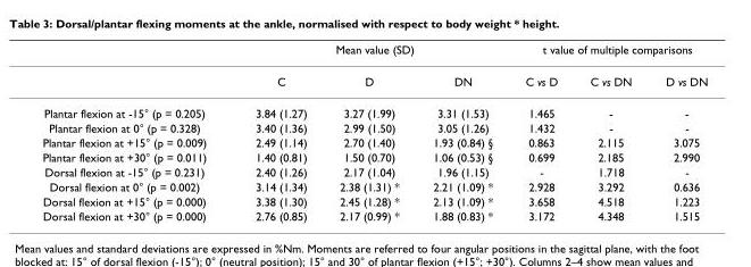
<table><thead><tr><td rowspan="2"></td><td colspan="3">Mean value (SD)</td><td colspan="3">t value of multiple comparisons</td></tr><tr><td>C</td><td>D</td><td>DN</td><td>C vs D</td><td>C vs DN</td><td>D vs DN</td></tr></thead><tbody><tr><td>Plantar flexion at -15° (p = 0.205)</td><td>3.84 (1.27)</td><td>3.27 (1.99)</td><td>3.31 (1.53)</td><td>1.465</td><td>-</td><td>-</td></tr><tr><td>Plantar flexion at 0° (p = 0.328)</td><td>3.40 (1.36)</td><td>2.99 (1.50)</td><td>3.05 (1.26)</td><td>1.432</td><td>-</td><td>-</td></tr><tr><td>Plantar flexion at +15° (p = 0.009)</td><td>2.49 (1.14)</td><td>2.70 (1.40)</td><td>1.93 (0.84) §</td><td>0.863</td><td>2.115</td><td>3.075</td></tr><tr><td>Plantar flexion at +30° (p = 0.011)</td><td>1.40 (0.81)</td><td>1.50 (0.70)</td><td>1.06 (0.53) §</td><td>0.699</td><td>2.185</td><td>2.990</td></tr><tr><td>Dorsal flexion at -15° (p = 0.231)</td><td>2.40 (1.26)</td><td>2.17 (1.04)</td><td>1.96 (1.15)</td><td>-</td><td>1.718</td><td>-</td></tr><tr><td>Dorsal flexion at 0° (p = 0.002)</td><td>3.14 (1.34)</td><td>2.38 (1.31) *</td><td>2.21 (1.09) *</td><td>2.928</td><td>3.292</td><td>0.636</td></tr><tr><td>Dorsal flexion at +15° (p = 0.000)</td><td>3.38 (1.30)</td><td>2.45 (1.28) *</td><td>2.13 (1.09) *</td><td>3.658</td><td>4.518</td><td>1.223</td></tr><tr><td>Dorsal flexion at +30° (p = 0.000)</td><td>2.76 (0.85)</td><td>2.17 (0.99) *</td><td>1.88 (0.83) *</td><td>3.172</td><td>4.348</td><td>1.515</td></tr></tbody></table>